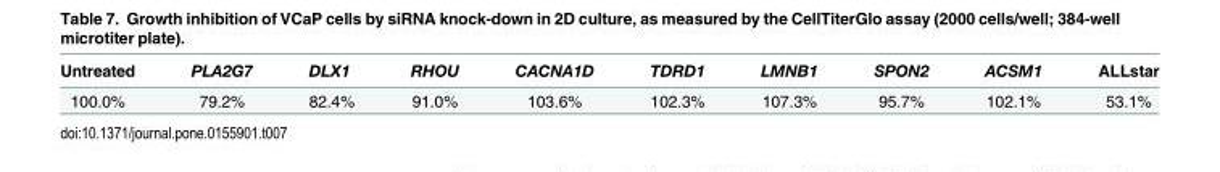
<table><thead><tr><td>Untreated</td><td>PLA2G7</td><td>DLX1</td><td>RHOU</td><td>CACNA1D</td><td>TDRD1</td><td>LMNB1</td><td>SPON2</td><td>ACSM1</td><td>ALLstar</td></tr></thead><tbody><tr><td>100.0%</td><td>79.2%</td><td>82.4%</td><td>91.0%</td><td>103.6%</td><td>102.3%</td><td>107.3%</td><td>95.7%</td><td>102.1%</td><td>53.1%</td></tr></tbody></table>